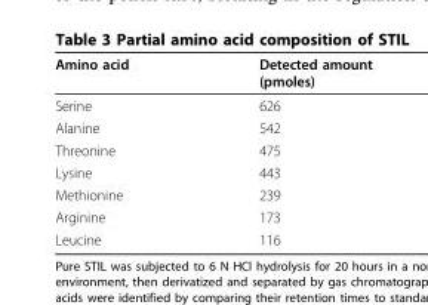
<table><thead><tr><td>Amino acid</td><td>Detected amount (pmoles)</td></tr></thead><tbody><tr><td>Serine</td><td>626</td></tr><tr><td>Alanine</td><td>542</td></tr><tr><td>Threonine</td><td>475</td></tr><tr><td>Lysine</td><td>443</td></tr><tr><td>Methionine</td><td>239</td></tr><tr><td>Arginine</td><td>173</td></tr><tr><td>Leucine</td><td>116</td></tr></tbody></table>